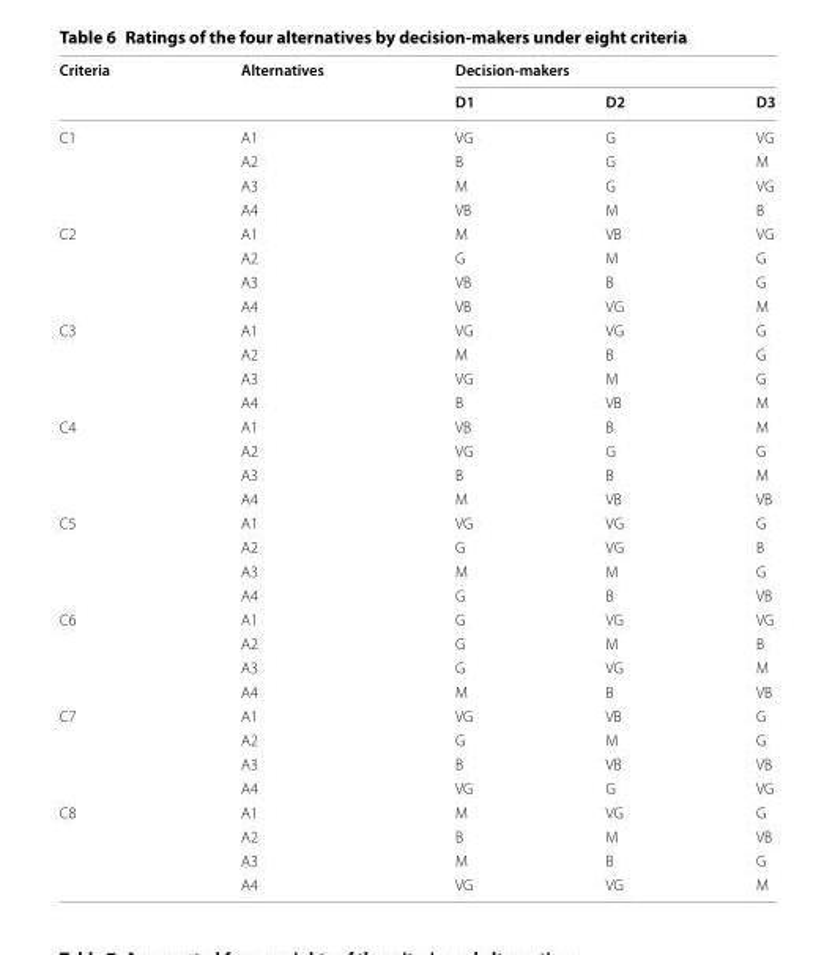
<table><thead><tr><td rowspan="2">Criteria</td><td rowspan="2">Alternatives</td><td colspan="3">Decision-makers</td></tr><tr><td>D1</td><td>D2</td><td>D3</td></tr></thead><tbody><tr><td rowspan="4">C1</td><td>A1</td><td>VG</td><td>G</td><td>VG</td></tr><tr><td>A2</td><td>B</td><td>G</td><td>M</td></tr><tr><td>A3</td><td>M</td><td>G</td><td>VG</td></tr><tr><td>A4</td><td>VB</td><td>M</td><td>B</td></tr><tr><td rowspan="4">C2</td><td>A1</td><td>M</td><td>VB</td><td>VG</td></tr><tr><td>A2</td><td>G</td><td>M</td><td>G</td></tr><tr><td>A3</td><td>VB</td><td>B</td><td>G</td></tr><tr><td>A4</td><td>VB</td><td>VG</td><td>M</td></tr><tr><td rowspan="4">C3</td><td>A1</td><td>VG</td><td>VG</td><td>G</td></tr><tr><td>A2</td><td>M</td><td>B</td><td>G</td></tr><tr><td>A3</td><td>VG</td><td>M</td><td>G</td></tr><tr><td>A4</td><td>B</td><td>VB</td><td>M</td></tr><tr><td rowspan="4">C4</td><td>A1</td><td>VB</td><td>B</td><td>M</td></tr><tr><td>A2</td><td>VG</td><td>G</td><td>G</td></tr><tr><td>A3</td><td>B</td><td>B</td><td>M</td></tr><tr><td>A4</td><td>M</td><td>VB</td><td>VB</td></tr><tr><td rowspan="4">C5</td><td>A1</td><td>VG</td><td>VG</td><td>G</td></tr><tr><td>A2</td><td>G</td><td>VG</td><td>B</td></tr><tr><td>A3</td><td>M</td><td>M</td><td>G</td></tr><tr><td>A4</td><td>G</td><td>B</td><td>VB</td></tr><tr><td rowspan="4">C6</td><td>A1</td><td>G</td><td>VG</td><td>VG</td></tr><tr><td>A2</td><td>G</td><td>M</td><td>B</td></tr><tr><td>A3</td><td>G</td><td>VG</td><td>M</td></tr><tr><td>A4</td><td>M</td><td>B</td><td>VB</td></tr><tr><td rowspan="4">C7</td><td>A1</td><td>VG</td><td>VB</td><td>G</td></tr><tr><td>A2</td><td>G</td><td>M</td><td>G</td></tr><tr><td>A3</td><td>B</td><td>VB</td><td>VB</td></tr><tr><td>A4</td><td>VG</td><td>G</td><td>VG</td></tr><tr><td rowspan="4">C8</td><td>A1</td><td>M</td><td>VG</td><td>G</td></tr><tr><td>A2</td><td>B</td><td>M</td><td>VB</td></tr><tr><td>A3</td><td>M</td><td>B</td><td>G</td></tr><tr><td>A4</td><td>VG</td><td>VG</td><td>M</td></tr></tbody></table>